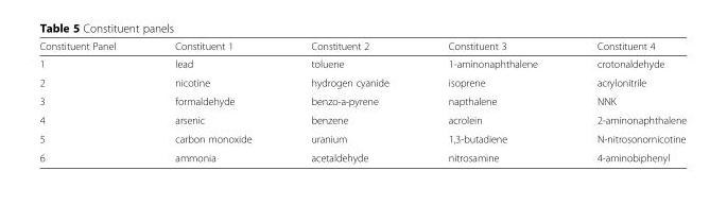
<table><thead><tr><td>Constituent Panel</td><td>Constituent 1</td><td>Constituent 2</td><td>Constituent 3</td><td>Constituent 4</td></tr></thead><tbody><tr><td>1</td><td>lead</td><td>toluene</td><td>1-aminonaphthalene</td><td>crotonaldehyde</td></tr><tr><td>2</td><td>nicotine</td><td>hydrogen cyanide</td><td>isoprene</td><td>acrylonitrile</td></tr><tr><td>3</td><td>formaldehyde</td><td>benzo-a-pyrene</td><td>napthalene</td><td>NNK</td></tr><tr><td>4</td><td>arsenic</td><td>benzene</td><td>acrolein</td><td>2-aminonaphthalene</td></tr><tr><td>5</td><td>carbon monoxide</td><td>uranium</td><td>1,3-butadiene</td><td>N-nitrosonornicotine</td></tr><tr><td>6</td><td>ammonia</td><td>acetaldehyde</td><td>nitrosamine</td><td>4-aminobiphenyl</td></tr></tbody></table>